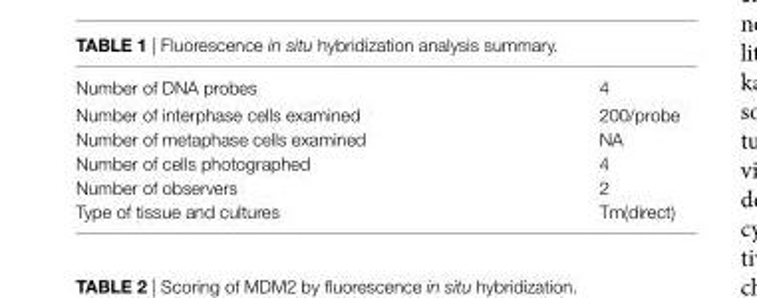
<table><tbody><tr><td>Number of DNA probes</td><td>4</td></tr><tr><td>Number of interphase cells examined</td><td>200/probe</td></tr><tr><td>Number of metaphase cells examined</td><td>NA</td></tr><tr><td>Number of cells photographed</td><td>4</td></tr><tr><td>Number of observers</td><td>2</td></tr><tr><td>Type of tissue and cultures</td><td>Tm(direct)</td></tr></tbody></table>